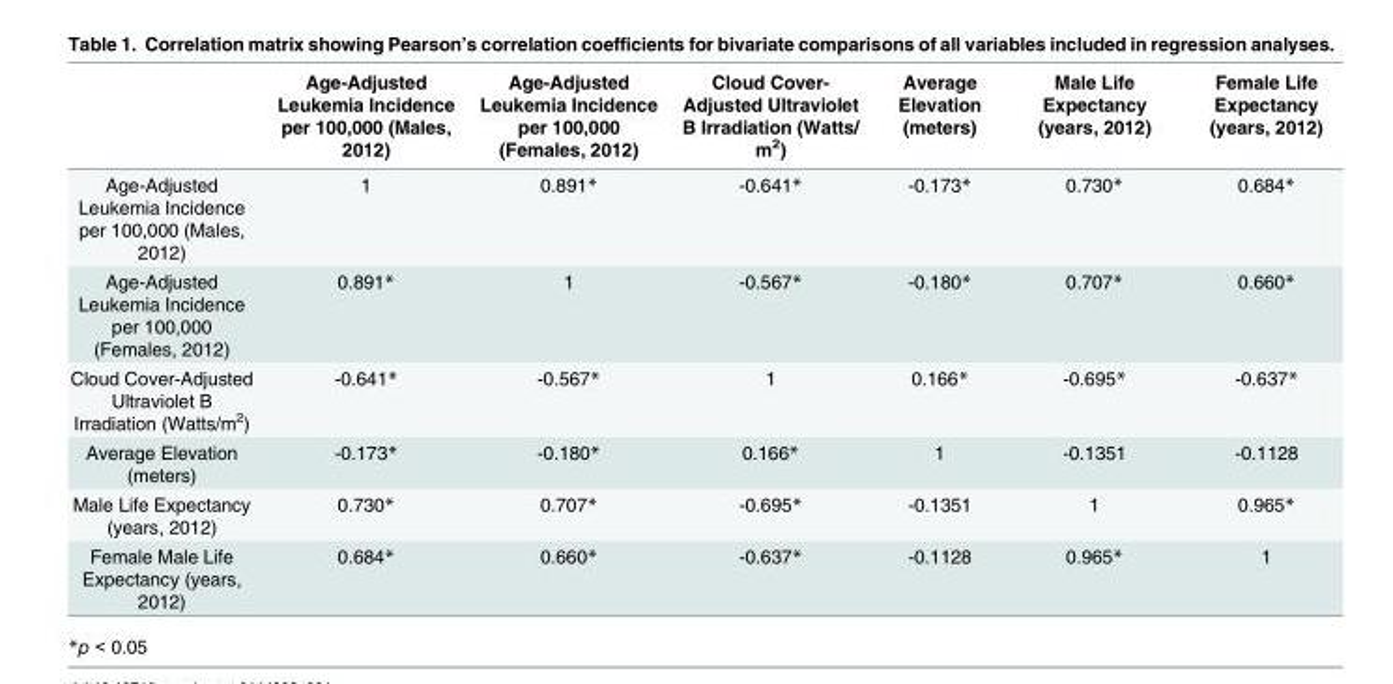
<table><thead><tr><td></td><td>Age-Adjusted Leukemia Incidence per 100,000 (Males, 2012)</td><td>Age-Adjusted Leukemia Incidence per 100,000 (Females, 2012)</td><td>Cloud Cover- Adjusted Ultraviolet B Irradiation (Watts/ m<sup>2</sup>)</td><td>Average Elevation (meters)</td><td>Male Life Expectancy (years, 2012)</td><td>Female Life Expectancy (years, 2012)</td></tr></thead><tbody><tr><td>Age-Adjusted Leukemia Incidence per 100,000 (Males, 2012)</td><td>1</td><td>0.891*</td><td>-0.641*</td><td>-0.173*</td><td>0.730*</td><td>0.684*</td></tr><tr><td>Age-Adjusted Leukemia Incidence per 100,000 (Females, 2012)</td><td>0.891*</td><td>1</td><td>-0.567*</td><td>-0.180*</td><td>0.707*</td><td>0.660*</td></tr><tr><td>Cloud Cover-Adjusted Ultraviolet B Irradiation (Watts/m<sup>2</sup>)</td><td>-0.641*</td><td>-0.567*</td><td>1</td><td>0.166*</td><td>-0.695*</td><td>-0.637*</td></tr><tr><td>Average Elevation (meters)</td><td>-0.173*</td><td>-0.180*</td><td>0.166*</td><td>1</td><td>-0.1351</td><td>-0.1128</td></tr><tr><td>Male Life Expectancy (years, 2012)</td><td>0.730*</td><td>0.707*</td><td>-0.695*</td><td>-0.1351</td><td>1</td><td>0.965*</td></tr><tr><td>Female Male Life Expectancy (years, 2012)</td><td>0.684*</td><td>0.660*</td><td>-0.637*</td><td>-0.1128</td><td>0.965*</td><td>1</td></tr></tbody></table>